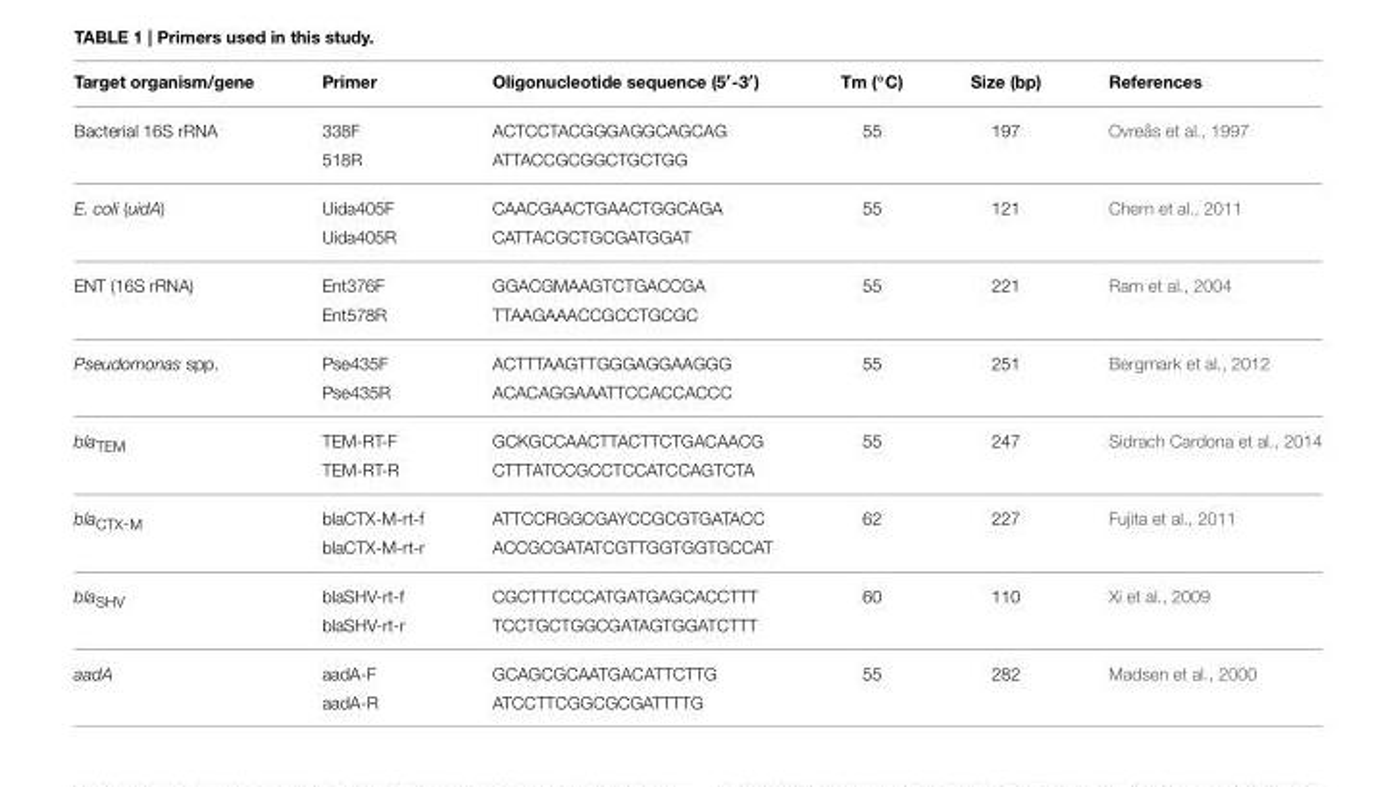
<table><thead><tr><td>Target organism/gene</td><td>Primer</td><td>Oligonucleotide sequence (5′-3′)</td><td>Tm (◦C)</td><td>Size (bp)</td><td>References</td></tr></thead><tbody><tr><td rowspan="2">Bacterial 16S rRNA</td><td>338F</td><td>ACTCCTACGGGAGGCAGCAG</td><td>55</td><td>197</td><td>Ovreås et al., 1997</td></tr><tr><td>518R</td><td>ATTACCGCGGCTGCTGG</td><td></td><td></td><td></td></tr><tr><td rowspan="2">E. coli (uidA)</td><td>Uida405F</td><td>CAACGAACTGAACTGGCAGA</td><td>55</td><td>121</td><td>Chern et al., 2011</td></tr><tr><td>Uida405R</td><td>CATTACGCTGCGATGGAT</td><td></td><td></td><td></td></tr><tr><td rowspan="2">ENT (16S rRNA)</td><td>Ent376F</td><td>GGACGMAAGTCTGACCGA</td><td>55</td><td>221</td><td>Ram et al., 2004</td></tr><tr><td>Ent578R</td><td>TTAAGAAACCGCCTGCGC</td><td></td><td></td><td></td></tr><tr><td rowspan="2">Pseudomonas spp.</td><td>Pse435F</td><td>ACTTTAAGTTGGGAGGAAGGG</td><td>55</td><td>251</td><td>Bergmark et al., 2012</td></tr><tr><td>Pse435R</td><td>ACACAGGAAATTCCACCACCC</td><td></td><td></td><td></td></tr><tr><td rowspan="2">bla<sub>TEM</sub></td><td>TEM-RT-F</td><td>GCKGCCAACTTACTTCTGACAACG</td><td>55</td><td>247</td><td>Sidrach Cardona et al., 2014</td></tr><tr><td>TEM-RT-R</td><td>CTTTATCCGCCTCCATCCAGTCTA</td><td></td><td></td><td></td></tr><tr><td rowspan="2">bla<sub>CTX-M</sub></td><td>blaCTX-M-rt-f</td><td>ATTCCRGGCGAYCCGCGTGATACC</td><td>62</td><td>227</td><td>Fujita et al., 2011</td></tr><tr><td>blaCTX-M-rt-r</td><td>ACCGCGATATCGTTGGTGGTGCCAT</td><td></td><td></td><td></td></tr><tr><td rowspan="2">bla<sub>SHV</sub></td><td>blaSHV-rt-f</td><td>CGCTTTCCCATGATGAGCACCTTT</td><td>60</td><td>110</td><td>Xi et al., 2009</td></tr><tr><td>blaSHV-rt-r</td><td>TCCTGCTGGCGATAGTGGATCTTT</td><td></td><td></td><td></td></tr><tr><td rowspan="2">aadA</td><td>aadA-F</td><td>GCAGCGCAATGACATTCTTG</td><td>55</td><td>282</td><td>Madsen et al., 2000</td></tr><tr><td>aadA-R</td><td>ATCCTTCGGCGCGATTTTG</td><td></td><td></td><td></td></tr></tbody></table>